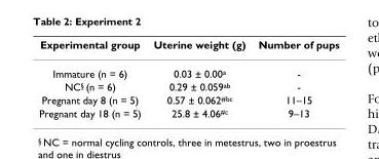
<table><thead><tr><td>Experimental group</td><td>Uterine weight (g)</td><td>Number of pups</td></tr></thead><tbody><tr><td>Immature (n = 6)</td><td>0.03 ± 0.00<sup>a</sup></td><td>-</td></tr><tr><td>NC<sup>§</sup> (n = 6)</td><td>0.29 ± 0.059<sup>ab</sup></td><td>-</td></tr><tr><td>Pregnant day 8 (n = 5)</td><td>0.57 ± 0.062<sup>#bc</sup></td><td>11–15</td></tr><tr><td>Pregnant day 18 (n = 5)</td><td>25.8 ± 4.06<sup>#c</sup></td><td>9–13</td></tr></tbody></table>